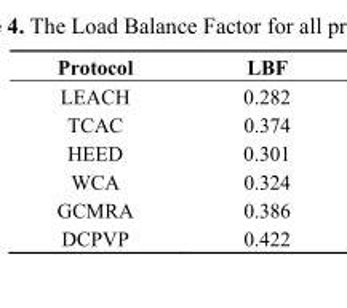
<table><thead><tr><td>Protocol</td><td>LBF</td></tr></thead><tbody><tr><td>LEACH</td><td>0.282</td></tr><tr><td>TCAC</td><td>0.374</td></tr><tr><td>HEED</td><td>0.301</td></tr><tr><td>WCA</td><td>0.324</td></tr><tr><td>GCMRA</td><td>0.386</td></tr><tr><td>DCPVP</td><td>0.422</td></tr></tbody></table>